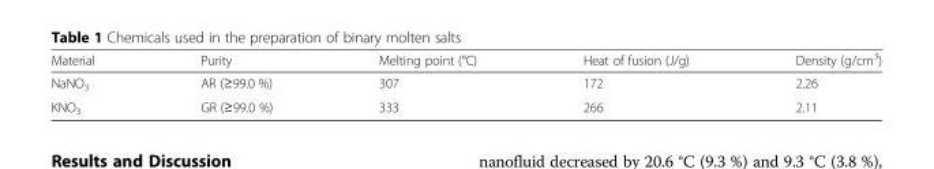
<table><thead><tr><td>Material</td><td>Purity</td><td>Melting point (°C)</td><td>Heat of fusion (J/g)</td><td>Density (g/cm<sup>3</sup>)</td></tr></thead><tbody><tr><td>NaNO<sub>3</sub></td><td>AR (≥99.0 %)</td><td>307</td><td>172</td><td>2.26</td></tr><tr><td>KNO<sub>3</sub></td><td>GR (≥99.0 %)</td><td>333</td><td>266</td><td>2.11</td></tr></tbody></table>